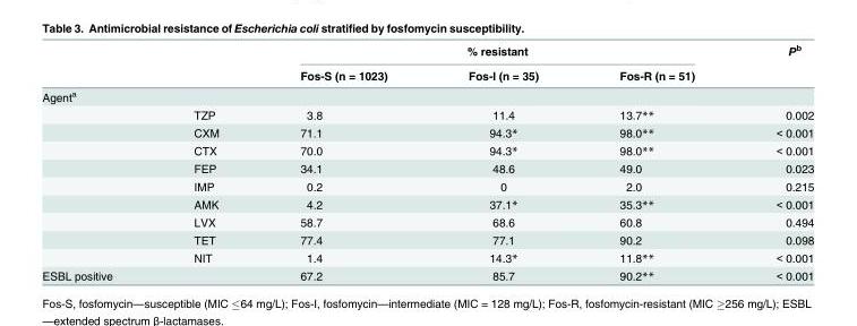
<table><thead><tr><td rowspan="2"></td><td rowspan="2"></td><td colspan="3">% resistant</td><td rowspan="2">P<sup>b</sup></td></tr><tr><td>Fos-S (n = 1023)</td><td>Fos-I (n = 35)</td><td>Fos-R (n = 51)</td></tr></thead><tbody><tr><td colspan="6">Agent<sup>a</sup></td></tr><tr><td></td><td>TZP</td><td>3.8</td><td>11.4</td><td>13.7**</td><td>0.002</td></tr><tr><td></td><td>CXM</td><td>71.1</td><td>94.3*</td><td>98.0**</td><td>&lt; 0.001</td></tr><tr><td></td><td>CTX</td><td>70.0</td><td>94.3*</td><td>98.0**</td><td>&lt; 0.001</td></tr><tr><td></td><td>FEP</td><td>34.1</td><td>48.6</td><td>49.0</td><td>0.023</td></tr><tr><td></td><td>IMP</td><td>0.2</td><td>0</td><td>2.0</td><td>0.215</td></tr><tr><td></td><td>AMK</td><td>4.2</td><td>37.1*</td><td>35.3**</td><td>&lt; 0.001</td></tr><tr><td></td><td>LVX</td><td>58.7</td><td>68.6</td><td>60.8</td><td>0.494</td></tr><tr><td></td><td>TET</td><td>77.4</td><td>77.1</td><td>90.2</td><td>0.098</td></tr><tr><td></td><td>NIT</td><td>1.4</td><td>14.3*</td><td>11.8**</td><td>&lt; 0.001</td></tr><tr><td>ESBL positive</td><td></td><td>67.2</td><td>85.7</td><td>90.2**</td><td>&lt; 0.001</td></tr></tbody></table>